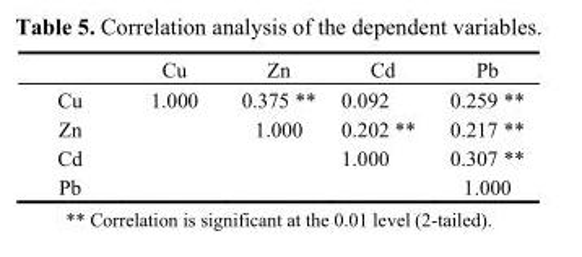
<table><thead><tr><td></td><td>Cu</td><td>Zn</td><td>Cd</td><td>Pb</td></tr></thead><tbody><tr><td>Cu</td><td>1.000</td><td>0.375 **</td><td>0.092</td><td>0.259 **</td></tr><tr><td>Zn</td><td></td><td>1.000</td><td>0.202 **</td><td>0.217 **</td></tr><tr><td>Cd</td><td></td><td></td><td>1.000</td><td>0.307 **</td></tr><tr><td>Pb</td><td></td><td></td><td></td><td>1.000</td></tr></tbody></table>